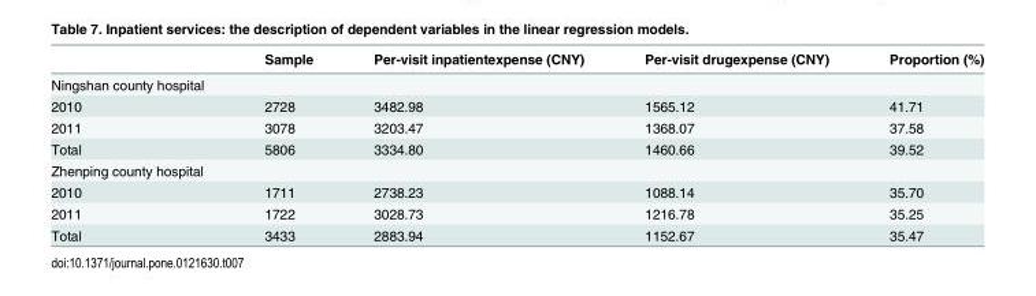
<table><thead><tr><td></td><td>Sample</td><td>Per-visit inpatientexpense (CNY)</td><td>Per-visit drugexpense (CNY)</td><td>Proportion (%)</td></tr></thead><tbody><tr><td colspan="5">Ningshan county hospital</td></tr><tr><td>2010</td><td>2728</td><td>3482.98</td><td>1565.12</td><td>41.71</td></tr><tr><td>2011</td><td>3078</td><td>3203.47</td><td>1368.07</td><td>37.58</td></tr><tr><td>Total</td><td>5806</td><td>3334.80</td><td>1460.66</td><td>39.52</td></tr><tr><td colspan="5">Zhenping county hospital</td></tr><tr><td>2010</td><td>1711</td><td>2738.23</td><td>1088.14</td><td>35.70</td></tr><tr><td>2011</td><td>1722</td><td>3028.73</td><td>1216.78</td><td>35.25</td></tr><tr><td>Total</td><td>3433</td><td>2883.94</td><td>1152.67</td><td>35.47</td></tr></tbody></table>